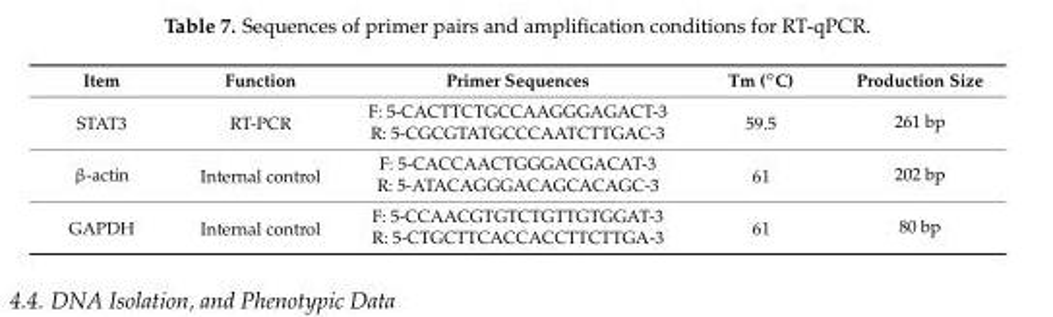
<table><thead><tr><td>Item</td><td>Function</td><td>Primer Sequences</td><td>Tm (<sup>◦</sup>C)</td><td>Production Size</td></tr></thead><tbody><tr><td rowspan="2">STAT3</td><td rowspan="2">RT-PCR</td><td>F: 5-CACTTCTGCCAAGGGAGACT-3</td><td rowspan="2">59.5</td><td rowspan="2">261 bp</td></tr><tr><td>R: 5-CGCGTATGCCCAATCTTGAC-3</td></tr><tr><td rowspan="2">β-actin</td><td rowspan="2">Internal control</td><td>F: 5-CACCAACTGGGACGACAT-3</td><td rowspan="2">61</td><td rowspan="2">202 bp</td></tr><tr><td>R: 5-ATACAGGGACAGCACAGC-3</td></tr><tr><td rowspan="2">GAPDH</td><td rowspan="2">Internal control</td><td>F: 5-CCAACGTGTCTGTTGTGGAT-3</td><td rowspan="2">61</td><td rowspan="2">80 bp</td></tr><tr><td>R: 5-CTGCTTCACCACCTTCTTGA-3</td></tr></tbody></table>